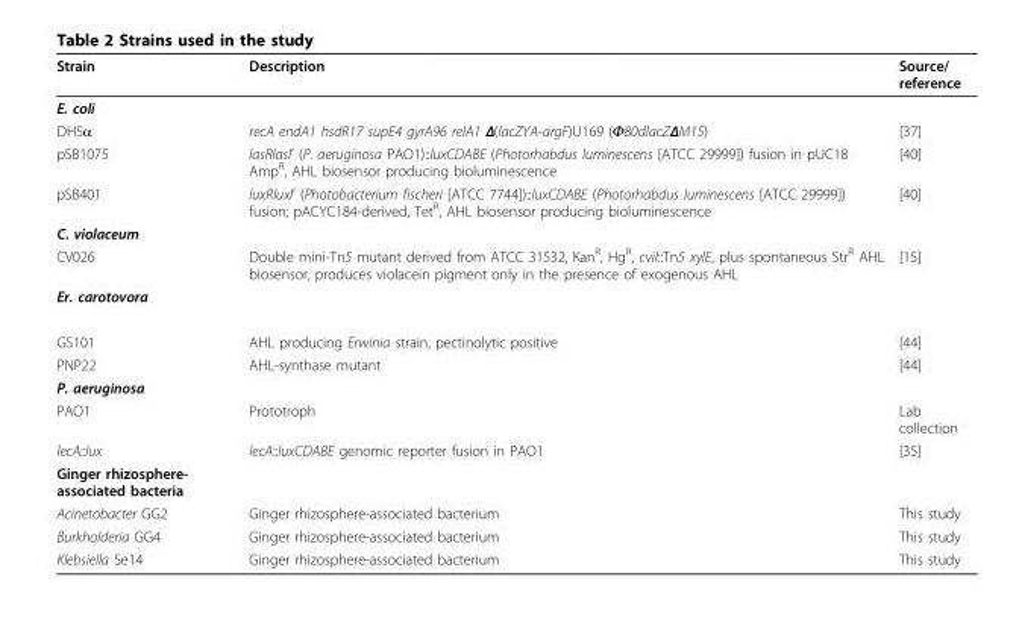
<table><thead><tr><td>Strain</td><td>Description</td><td>Source/ reference</td></tr></thead><tbody><tr><td colspan="3">E. coli</td></tr><tr><td>DH5α</td><td>recA endA1 hsdR17 supE4 gyrA96 relA1 Δ(lacZYA-argF)U169 (Φ80dlacZΔM15)</td><td>[37]</td></tr><tr><td>pSB1075</td><td>lasRlasl’ (P. aeruginosa PAO1)::luxCDABE (Photorhabdus luminescens [ATCC 29999]) fusion in pUC18 Amp<sup>R</sup>, AHL biosensor producing bioluminescence</td><td>[40]</td></tr><tr><td>pSB401</td><td>luxRluxl’ (Photobacterium fischeri [ATCC 7744])::luxCDABE (Photorhabdus luminescens [ATCC 29999]) fusion; pACYC184-derived, Tet<sup>R</sup>, AHL biosensor producing bioluminescence</td><td>[40]</td></tr><tr><td colspan="3">C. violaceum</td></tr><tr><td>CV026</td><td>Double mini-Tn5 mutant derived from ATCC 31532, Kan<sup>R</sup>, Hg<sup>R</sup>, cviI::Tn5 xylE, plus spontaneous Str<sup>R</sup> AHL biosensor, produces violacein pigment only in the presence of exogenous AHL</td><td>[15]</td></tr><tr><td colspan="3">Er. carotovora</td></tr><tr><td>GS101</td><td>AHL producing Erwinia strain, pectinolytic positive</td><td>[44]</td></tr><tr><td>PNP22</td><td>AHL-synthase mutant</td><td>[44]</td></tr><tr><td colspan="3">P. aeruginosa</td></tr><tr><td>PAO1</td><td>Prototroph</td><td>Lab collection</td></tr><tr><td>lecA::lux</td><td>lecA::luxCDABE genomic reporter fusion in PAO1</td><td>[35]</td></tr><tr><td colspan="3">Ginger rhizosphere- associated bacteria</td></tr><tr><td>Acinetobacter GG2</td><td>Ginger rhizosphere-associated bacterium</td><td>This study</td></tr><tr><td>Burkholderia GG4</td><td>Ginger rhizosphere-associated bacterium</td><td>This study</td></tr><tr><td>Klebsiella Se14</td><td>Ginger rhizosphere-associated bacterium</td><td>This study</td></tr></tbody></table>